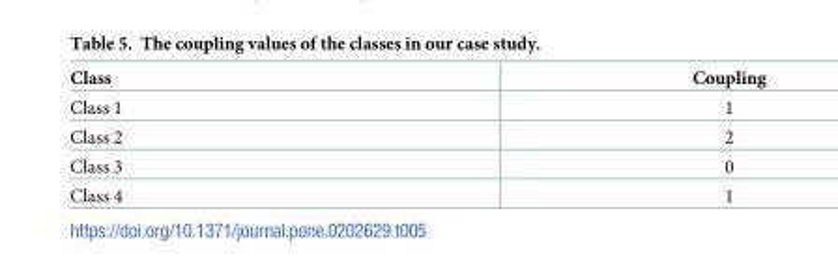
<table><thead><tr><td>Class</td><td>Coupling</td></tr></thead><tbody><tr><td>Class 1</td><td>1</td></tr><tr><td>Class 2</td><td>2</td></tr><tr><td>Class 3</td><td>0</td></tr><tr><td>Class 4</td><td>1</td></tr></tbody></table>